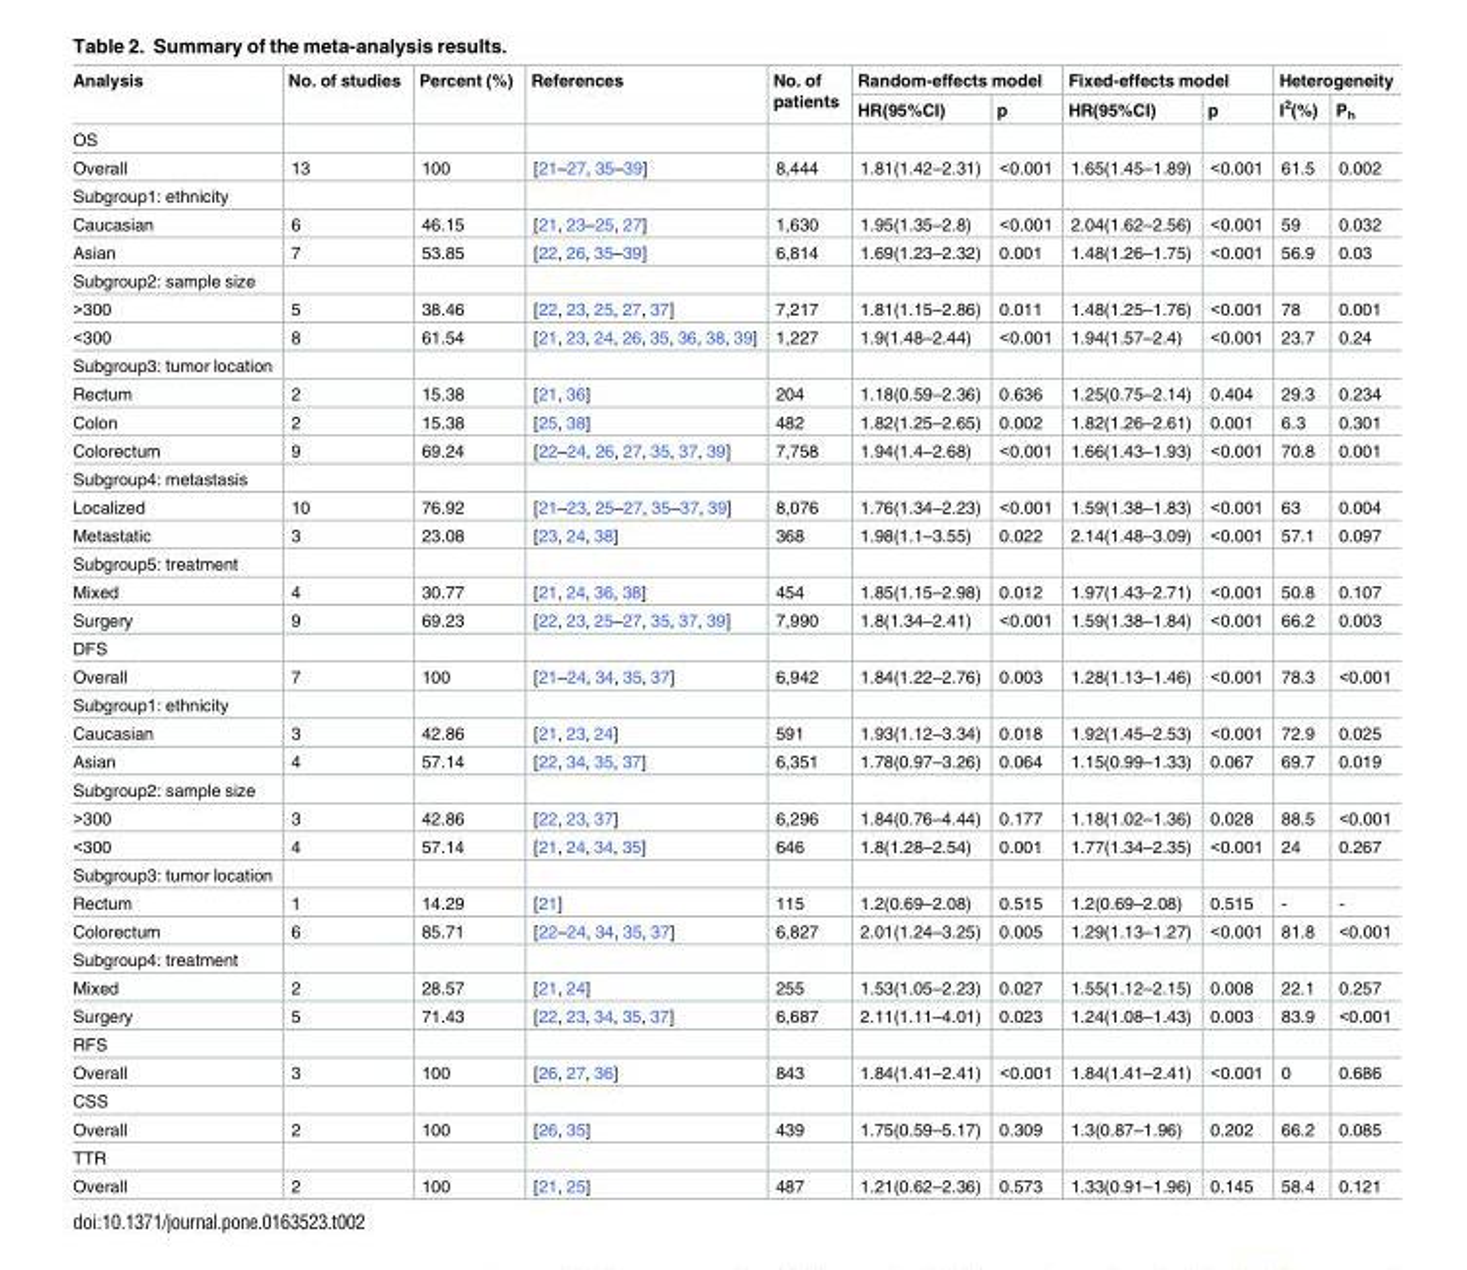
<table><thead><tr><td rowspan="2">Analysis</td><td rowspan="2">No. of studies</td><td rowspan="2">Percent (%)</td><td rowspan="2">References</td><td rowspan="2">No. of patients</td><td colspan="2">Random-effects model</td><td colspan="2">Fixed-effects model</td><td colspan="2">Heterogeneity</td></tr><tr><td>HR(95%CI)</td><td>p</td><td>HR(95%CI)</td><td>p</td><td>I<sup>2</sup>(%)</td><td>P<sub>h</sub></td></tr></thead><tbody><tr><td colspan="11">OS</td></tr><tr><td>Overall</td><td>13</td><td>100</td><td>[21–27, 35–39]</td><td>8,444</td><td>1.81(1.42–2.31)</td><td>&lt;0.001</td><td>1.65(1.45–1.89)</td><td>&lt;0.001</td><td>61.5</td><td>0.002</td></tr><tr><td colspan="11">Subgroup1: ethnicity</td></tr><tr><td>Caucasian</td><td>6</td><td>46.15</td><td>[21, 23–25, 27]</td><td>1,630</td><td>1.95(1.35–2.8)</td><td>&lt;0.001</td><td>2.04(1.62–2.56)</td><td>&lt;0.001</td><td>59</td><td>0.032</td></tr><tr><td>Asian</td><td>7</td><td>53.85</td><td>[22, 26, 35–39]</td><td>6,814</td><td>1.69(1.23–2.32)</td><td>0.001</td><td>1.48(1.26–1.75)</td><td>&lt;0.001</td><td>56.9</td><td>0.03</td></tr><tr><td colspan="11">Subgroup2: sample size</td></tr><tr><td>&gt;300</td><td>5</td><td>38.46</td><td>[22, 23, 25, 27, 37]</td><td>7,217</td><td>1.81(1.15–2.86)</td><td>0.011</td><td>1.48(1.25–1.76)</td><td>&lt;0.001</td><td>78</td><td>0.001</td></tr><tr><td>&lt;300</td><td>8</td><td>61.54</td><td>[21, 23, 24, 26, 35, 36, 38, 39]</td><td>1,227</td><td>1.9(1.48–2.44)</td><td>&lt;0.001</td><td>1.94(1.57–2.4)</td><td>&lt;0.001</td><td>23.7</td><td>0.24</td></tr><tr><td colspan="11">Subgroup3: tumor location</td></tr><tr><td>Rectum</td><td>2</td><td>15.38</td><td>[21, 36]</td><td>204</td><td>1.18(0.59–2.36)</td><td>0.636</td><td>1.25(0.75–2.14)</td><td>0.404</td><td>29.3</td><td>0.234</td></tr><tr><td>Colon</td><td>2</td><td>15.38</td><td>[25, 38]</td><td>482</td><td>1.82(1.25–2.65)</td><td>0.002</td><td>1.82(1.26–2.61)</td><td>0.001</td><td>6.3</td><td>0.301</td></tr><tr><td>Colorectum</td><td>9</td><td>69.24</td><td>[22–24, 26, 27, 35, 37, 39]</td><td>7,758</td><td>1.94(1.4–2.68)</td><td>&lt;0.001</td><td>1.66(1.43–1.93)</td><td>&lt;0.001</td><td>70.8</td><td>0.001</td></tr><tr><td colspan="11">Subgroup4: metastasis</td></tr><tr><td>Localized</td><td>10</td><td>76.92</td><td>[21–23, 25–27, 35–37, 39]</td><td>8,076</td><td>1.76(1.34–2.23)</td><td>&lt;0.001</td><td>1.59(1.38–1.83)</td><td>&lt;0.001</td><td>63</td><td>0.004</td></tr><tr><td>Metastatic</td><td>3</td><td>23.08</td><td>[23, 24, 38]</td><td>368</td><td>1.98(1.1–3.55)</td><td>0.022</td><td>2.14(1.48–3.09)</td><td>&lt;0.001</td><td>57.1</td><td>0.097</td></tr><tr><td colspan="11">Subgroup5: treatment</td></tr><tr><td>Mixed</td><td>4</td><td>30.77</td><td>[21, 24, 36, 38]</td><td>454</td><td>1.85(1.15–2.98)</td><td>0.012</td><td>1.97(1.43–2.71)</td><td>&lt;0.001</td><td>50.8</td><td>0.107</td></tr><tr><td>Surgery</td><td>9</td><td>69.23</td><td>[22, 23, 25–27, 35, 37, 39]</td><td>7,990</td><td>1.8(1.34–2.41)</td><td>&lt;0.001</td><td>1.59(1.38–1.84)</td><td>&lt;0.001</td><td>66.2</td><td>0.003</td></tr><tr><td colspan="11">DFS</td></tr><tr><td>Overall</td><td>7</td><td>100</td><td>[21–24, 34, 35, 37]</td><td>6,942</td><td>1.84(1.22–2.76)</td><td>0.003</td><td>1.28(1.13–1.46)</td><td>&lt;0.001</td><td>78.3</td><td>&lt;0.001</td></tr><tr><td colspan="11">Subgroup1: ethnicity</td></tr><tr><td>Caucasian</td><td>3</td><td>42.86</td><td>[21, 23, 24]</td><td>591</td><td>1.93(1.12–3.34)</td><td>0.018</td><td>1.92(1.45–2.53)</td><td>&lt;0.001</td><td>72.9</td><td>0.025</td></tr><tr><td>Asian</td><td>4</td><td>57.14</td><td>[22, 34, 35, 37]</td><td>6,351</td><td>1.78(0.97–3.26)</td><td>0.064</td><td>1.15(0.99–1.33)</td><td>0.067</td><td>69.7</td><td>0.019</td></tr><tr><td colspan="11">Subgroup2: sample size</td></tr><tr><td>&gt;300</td><td>3</td><td>42.86</td><td>[22, 23, 37]</td><td>6,296</td><td>1.84(0.76–4.44)</td><td>0.177</td><td>1.18(1.02–1.36)</td><td>0.028</td><td>88.5</td><td>&lt;0.001</td></tr><tr><td>&lt;300</td><td>4</td><td>57.14</td><td>[21, 24, 34, 35]</td><td>646</td><td>1.8(1.28–2.54)</td><td>0.001</td><td>1.77(1.34–2.35)</td><td>&lt;0.001</td><td>24</td><td>0.267</td></tr><tr><td colspan="11">Subgroup3: tumor location</td></tr><tr><td>Rectum</td><td>1</td><td>14.29</td><td>[21]</td><td>115</td><td>1.2(0.69–2.08)</td><td>0.515</td><td>1.2(0.69–2.08)</td><td>0.515</td><td>-</td><td>-</td></tr><tr><td>Colorectum</td><td>6</td><td>85.71</td><td>[22–24, 34, 35, 37]</td><td>6,827</td><td>2.01(1.24–3.25)</td><td>0.005</td><td>1.29(1.13–1.27)</td><td>&lt;0.001</td><td>81.8</td><td>&lt;0.001</td></tr><tr><td colspan="11">Subgroup4: treatment</td></tr><tr><td>Mixed</td><td>2</td><td>28.57</td><td>[21, 24]</td><td>255</td><td>1.53(1.05–2.23)</td><td>0.027</td><td>1.55(1.12–2.15)</td><td>0.008</td><td>22.1</td><td>0.257</td></tr><tr><td>Surgery</td><td>5</td><td>71.43</td><td>[22, 23, 34, 35, 37]</td><td>6,687</td><td>2.11(1.11–4.01)</td><td>0.023</td><td>1.24(1.08–1.43)</td><td>0.003</td><td>83.9</td><td>&lt;0.001</td></tr><tr><td colspan="11">RFS</td></tr><tr><td>Overall</td><td>3</td><td>100</td><td>[26, 27, 36]</td><td>843</td><td>1.84(1.41–2.41)</td><td>&lt;0.001</td><td>1.84(1.41–2.41)</td><td>&lt;0.001</td><td>0</td><td>0.686</td></tr><tr><td colspan="11">CSS</td></tr><tr><td>Overall</td><td>2</td><td>100</td><td>[26, 35]</td><td>439</td><td>1.75(0.59–5.17)</td><td>0.309</td><td>1.3(0.87–1.96)</td><td>0.202</td><td>66.2</td><td>0.085</td></tr><tr><td colspan="11">TTR</td></tr><tr><td>Overall</td><td>2</td><td>100</td><td>[21, 25]</td><td>487</td><td>1.21(0.62–2.36)</td><td>0.573</td><td>1.33(0.91–1.96)</td><td>0.145</td><td>58.4</td><td>0.121</td></tr></tbody></table>